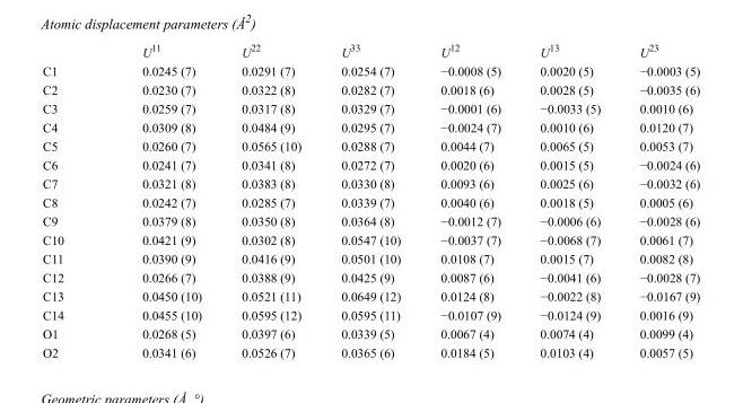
<table><thead><tr><td></td><td>U<sup>11</sup></td><td>U<sup>22</sup></td><td>U<sup>33</sup></td><td>U<sup>12</sup></td><td>U<sup>13</sup></td><td>U<sup>23</sup></td></tr></thead><tbody><tr><td>C1</td><td>0.0245 (7)</td><td>0.0291 (7)</td><td>0.0254 (7)</td><td>−0.0008 (5)</td><td>0.0020 (5)</td><td>−0.0003 (5)</td></tr><tr><td>C2</td><td>0.0230 (7)</td><td>0.0322 (8)</td><td>0.0282 (7)</td><td>0.0018 (6)</td><td>0.0028 (5)</td><td>−0.0035 (6)</td></tr><tr><td>C3</td><td>0.0259 (7)</td><td>0.0317 (8)</td><td>0.0329 (7)</td><td>−0.0001 (6)</td><td>−0.0033 (5)</td><td>0.0010 (6)</td></tr><tr><td>C4</td><td>0.0309 (8)</td><td>0.0484 (9)</td><td>0.0295 (7)</td><td>−0.0024 (7)</td><td>0.0010 (6)</td><td>0.0120 (7)</td></tr><tr><td>C5</td><td>0.0260 (7)</td><td>0.0565 (10)</td><td>0.0288 (7)</td><td>0.0044 (7)</td><td>0.0065 (5)</td><td>0.0053 (7)</td></tr><tr><td>C6</td><td>0.0241 (7)</td><td>0.0341 (8)</td><td>0.0272 (7)</td><td>0.0020 (6)</td><td>0.0015 (5)</td><td>−0.0024 (6)</td></tr><tr><td>C7</td><td>0.0321 (8)</td><td>0.0383 (8)</td><td>0.0330 (8)</td><td>0.0093 (6)</td><td>0.0025 (6)</td><td>−0.0032 (6)</td></tr><tr><td>C8</td><td>0.0242 (7)</td><td>0.0285 (7)</td><td>0.0339 (7)</td><td>0.0040 (6)</td><td>0.0018 (5)</td><td>0.0005 (6)</td></tr><tr><td>C9</td><td>0.0379 (8)</td><td>0.0350 (8)</td><td>0.0364 (8)</td><td>−0.0012 (7)</td><td>−0.0006 (6)</td><td>−0.0028 (6)</td></tr><tr><td>C10</td><td>0.0421 (9)</td><td>0.0302 (8)</td><td>0.0547 (10)</td><td>−0.0037 (7)</td><td>−0.0068 (7)</td><td>0.0061 (7)</td></tr><tr><td>C11</td><td>0.0390 (9)</td><td>0.0416 (9)</td><td>0.0501 (10)</td><td>0.0108 (7)</td><td>0.0015 (7)</td><td>0.0082 (8)</td></tr><tr><td>C12</td><td>0.0266 (7)</td><td>0.0388 (9)</td><td>0.0425 (9)</td><td>0.0087 (6)</td><td>−0.0041 (6)</td><td>−0.0028 (7)</td></tr><tr><td>C13</td><td>0.0450 (10)</td><td>0.0521 (11)</td><td>0.0649 (12)</td><td>0.0124 (8)</td><td>−0.0022 (8)</td><td>−0.0167 (9)</td></tr><tr><td>C14</td><td>0.0455 (10)</td><td>0.0595 (12)</td><td>0.0595 (11)</td><td>−0.0107 (9)</td><td>−0.0124 (9)</td><td>0.0016 (9)</td></tr><tr><td>O1</td><td>0.0268 (5)</td><td>0.0397 (6)</td><td>0.0339 (5)</td><td>0.0067 (4)</td><td>0.0074 (4)</td><td>0.0099 (4)</td></tr><tr><td>O2</td><td>0.0341 (6)</td><td>0.0526 (7)</td><td>0.0365 (6)</td><td>0.0184 (5)</td><td>0.0103 (4)</td><td>0.0057 (5)</td></tr></tbody></table>